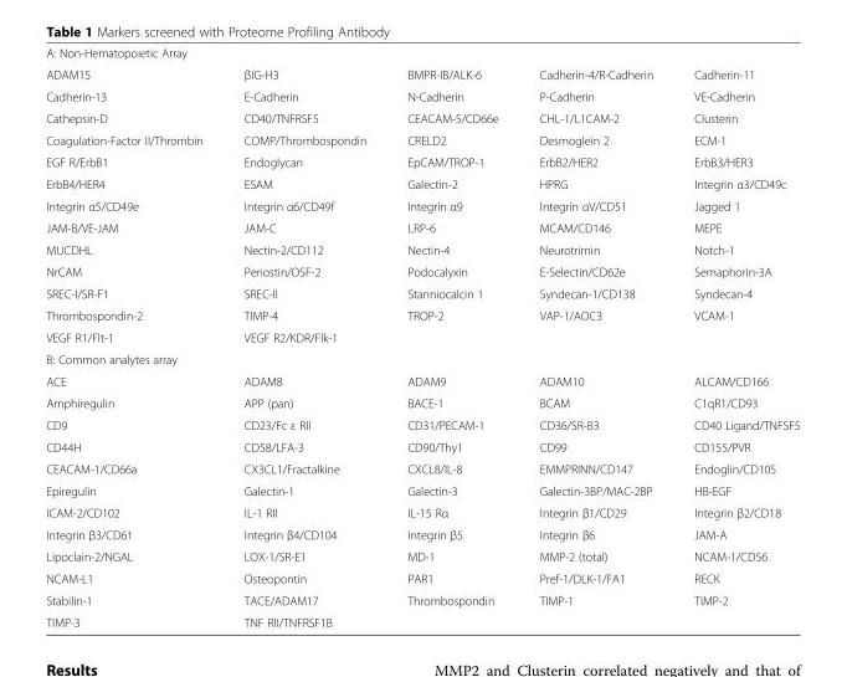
<table><tbody><tr><td colspan="5">A: Non-Hematopoietic Array</td></tr><tr><td>ADAM15</td><td>βIG-H3</td><td>BMPR-IB/ALK-6</td><td>Cadherin-4/R-Cadherin</td><td>Cadherin-11</td></tr><tr><td>Cadherin-13</td><td>E-Cadherin</td><td>N-Cadherin</td><td>P-Cadherin</td><td>VE-Cadherin</td></tr><tr><td>Cathepsin-D</td><td>CD40/TNFRSF5</td><td>CEACAM-5/CD66e</td><td>CHL-1/L1CAM-2</td><td>Clusterin</td></tr><tr><td>Coagulation-Factor II/Thrombin</td><td>COMP/Thrombospondin</td><td>CRELD2</td><td>Desmoglein 2</td><td>ECM-1</td></tr><tr><td>EGF R/ErbB1</td><td>Endoglycan</td><td>EpCAM/TROP-1</td><td>ErbB2/HER2</td><td>ErbB3/HER3</td></tr><tr><td>ErbB4/HER4</td><td>ESAM</td><td>Galectin-2</td><td>HPRG</td><td>Integrin α3/CD49c</td></tr><tr><td>Integrin α5/CD49e</td><td>Integrin α6/CD49f</td><td>Integrin α9</td><td>Integrin αV/CD51</td><td>Jagged 1</td></tr><tr><td>JAM-B/VE-JAM</td><td>JAM-C</td><td>LRP-6</td><td>MCAM/CD146</td><td>MEPE</td></tr><tr><td>MUCDHL</td><td>Nectin-2/CD112</td><td>Nectin-4</td><td>Neurotrimin</td><td>Notch-1</td></tr><tr><td>NrCAM</td><td>Periostin/OSF-2</td><td>Podocalyxin</td><td>E-Selectin/CD62e</td><td>Semaphorin-3A</td></tr><tr><td>SREC-I/SR-F1</td><td>SREC-II</td><td>Stanniocalcin 1</td><td>Syndecan-1/CD138</td><td>Syndecan-4</td></tr><tr><td>Thrombospondin-2</td><td>TIMP-4</td><td>TROP-2</td><td>VAP-1/AOC3</td><td>VCAM-1</td></tr><tr><td>VEGF R1/Flt-1</td><td>VEGF R2/KDR/Flk-1</td><td></td><td></td><td></td></tr><tr><td colspan="5">B: Common analytes array</td></tr><tr><td>ACE</td><td>ADAM8</td><td>ADAM9</td><td>ADAM10</td><td>ALCAM/CD166</td></tr><tr><td>Amphiregulin</td><td>APP (pan)</td><td>BACE-1</td><td>BCAM</td><td>C1qR1/CD93</td></tr><tr><td>CD9</td><td>CD23/Fc ε RII</td><td>CD31/PECAM-1</td><td>CD36/SR-B3</td><td>CD40 Ligand/TNFSF5</td></tr><tr><td>CD44H</td><td>CD58/LFA-3</td><td>CD90/Thy1</td><td>CD99</td><td>CD155/PVR</td></tr><tr><td>CEACAM-1/CD66a</td><td>CX3CL1/Fractalkine</td><td>CXCL8/IL-8</td><td>EMMPRINN/CD147</td><td>Endoglin/CD105</td></tr><tr><td>Epiregulin</td><td>Galectin-1</td><td>Galectin-3</td><td>Galectin-3BP/MAC-2BP</td><td>HB-EGF</td></tr><tr><td>ICAM-2/CD102</td><td>IL-1 RII</td><td>IL-15 Rα</td><td>Integrin β1/CD29</td><td>Integrin β2/CD18</td></tr><tr><td>Integrin β3/CD61</td><td>Integrin β4/CD104</td><td>Integrin β5</td><td>Integrin β6</td><td>JAM-A</td></tr><tr><td>Lipoclain-2/NGAL</td><td>LOX-1/SR-E1</td><td>MD-1</td><td>MMP-2 (total)</td><td>NCAM-1/CD56</td></tr><tr><td>NCAM-L1</td><td>Osteopontin</td><td>PAR1</td><td>Pref-1/DLK-1/FA1</td><td>RECK</td></tr><tr><td>Stabilin-1</td><td>TACE/ADAM17</td><td>Thrombospondin</td><td>TIMP-1</td><td>TIMP-2</td></tr><tr><td>TIMP-3</td><td>TNF RII/TNFRSF1B</td><td></td><td></td><td></td></tr></tbody></table>